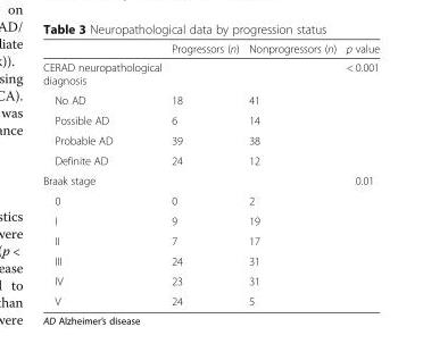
<table><thead><tr><td></td><td>Progressors (n)</td><td>Nonprogressors (n)</td><td>p value</td></tr></thead><tbody><tr><td colspan="3">CERAD neuropathological diagnosis</td><td rowspan="5">&lt; 0.001</td></tr><tr><td>No AD</td><td>18</td><td>41</td></tr><tr><td>Possible AD</td><td>6</td><td>14</td></tr><tr><td>Probable AD</td><td>39</td><td>38</td></tr><tr><td>Definite AD</td><td>24</td><td>12</td></tr><tr><td colspan="3">Braak stage</td><td rowspan="7">0.01</td></tr><tr><td>0</td><td>0</td><td>2</td></tr><tr><td>I</td><td>9</td><td>19</td></tr><tr><td>II</td><td>7</td><td>17</td></tr><tr><td>III</td><td>24</td><td>31</td></tr><tr><td>IV</td><td>23</td><td>31</td></tr><tr><td>V</td><td>24</td><td>5</td></tr></tbody></table>